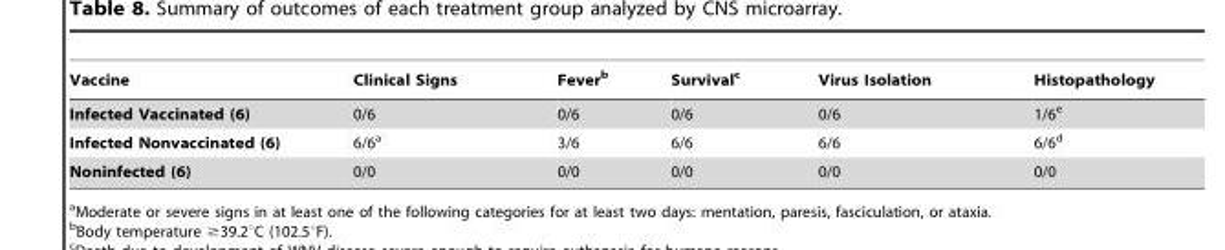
<table><thead><tr><td>Vaccine</td><td>Clinical Signs</td><td>Fever<sup>b</sup></td><td>Survival<sup>c</sup></td><td>Virus Isolation</td><td>Histopathology</td></tr></thead><tbody><tr><td>Infected Vaccinated (6)</td><td>0/6</td><td>0/6</td><td>0/6</td><td>0/6</td><td>1/6<sup>e</sup></td></tr><tr><td>Infected Nonvaccinated (6)</td><td>6/6<sup>a</sup></td><td>3/6</td><td>6/6</td><td>6/6</td><td>6/6<sup>d</sup></td></tr><tr><td>Noninfected (6)</td><td>0/0</td><td>0/0</td><td>0/0</td><td>0/0</td><td>0/0</td></tr></tbody></table>